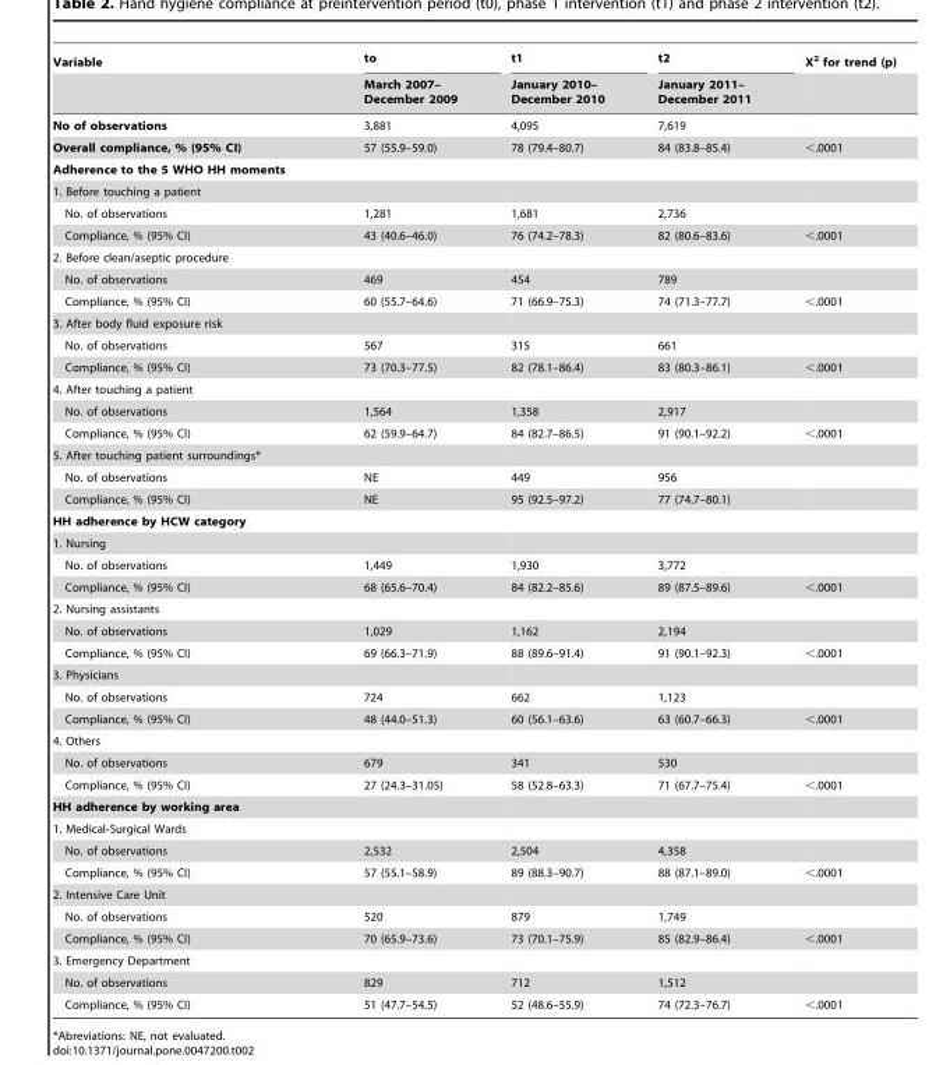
<table><thead><tr><td rowspan="2">Variable</td><td rowspan="2">to March 2007– December 2009</td><td rowspan="2">t1 January 2010– December 2010</td><td rowspan="2">t2 January 2011– December 2011</td><td rowspan="2">X<sup>2</sup> for trend (p)</td></tr><tr></tr></thead><tbody><tr><td>No of observations</td><td>3,881</td><td>4,095</td><td>7,619</td><td></td></tr><tr><td>Overall compliance, % (95% CI)</td><td>57 (55.9–59.0)</td><td>78 (79.4–80.7)</td><td>84 (83.8–85.4)</td><td>&lt;.0001</td></tr><tr><td colspan="5">Adherence to the 5 WHO HH moments</td></tr><tr><td colspan="5">1. Before touching a patient</td></tr><tr><td>No. of observations</td><td>1,281</td><td>1,681</td><td>2,736</td><td></td></tr><tr><td>Compliance, % (95% CI)</td><td>43 (40.6–46.0)</td><td>76 (74.2–78.3)</td><td>82 (80.6–83.6)</td><td>&lt;.0001</td></tr><tr><td colspan="5">2. Before clean/aseptic procedure</td></tr><tr><td>No. of observations</td><td>469</td><td>454</td><td>789</td><td></td></tr><tr><td>Compliance, % (95% CI)</td><td>60 (55.7–64.6)</td><td>71 (66.9–75.3)</td><td>74 (71.3–77.7)</td><td>&lt;.0001</td></tr><tr><td colspan="5">3. After body fluid exposure risk</td></tr><tr><td>No. of observations</td><td>567</td><td>315</td><td>661</td><td></td></tr><tr><td>Compliance, % (95% CI)</td><td>73 (70.3–77.5)</td><td>82 (78.1–86.4)</td><td>83 (80.3–86.1)</td><td>&lt;.0001</td></tr><tr><td colspan="5">4. After touching a patient</td></tr><tr><td>No. of observations</td><td>1,564</td><td>1,358</td><td>2,917</td><td></td></tr><tr><td>Compliance, % (95% CI)</td><td>62 (59.9–64.7)</td><td>84 (82.7–86.5)</td><td>91 (90.1–92.2)</td><td>&lt;.0001</td></tr><tr><td colspan="5">5. After touching patient surroundings*</td></tr><tr><td>No. of observations</td><td>NE</td><td>449</td><td>956</td><td></td></tr><tr><td>Compliance, % (95% CI)</td><td>NE</td><td>95 (92.5–97.2)</td><td>77 (74.7–80.1)</td><td></td></tr><tr><td colspan="5">HH adherence by HCW category</td></tr><tr><td colspan="5">1. Nursing</td></tr><tr><td>No. of observations</td><td>1,449</td><td>1,930</td><td>3,772</td><td></td></tr><tr><td>Compliance, % (95% CI)</td><td>68 (65.6–70.4)</td><td>84 (82.2–85.6)</td><td>89 (87.5–89.6)</td><td>&lt;.0001</td></tr><tr><td colspan="5">2. Nursing assistants</td></tr><tr><td>No. of observations</td><td>1,029</td><td>1,162</td><td>2,194</td><td></td></tr><tr><td>Compliance, % (95% CI)</td><td>69 (66.3–71.9)</td><td>88 (89.6–91.4)</td><td>91 (90.1–92.3)</td><td>&lt;.0001</td></tr><tr><td colspan="5">3. Physicians</td></tr><tr><td>No. of observations</td><td>724</td><td>662</td><td>1,123</td><td></td></tr><tr><td>Compliance, % (95% CI)</td><td>48 (44.0–51.3)</td><td>60 (56.1–63.6)</td><td>63 (60.7–66.3)</td><td>&lt;.0001</td></tr><tr><td colspan="5">4. Others</td></tr><tr><td>No. of observations</td><td>679</td><td>341</td><td>530</td><td></td></tr><tr><td>Compliance, % (95% CI)</td><td>27 (24.3–31.05)</td><td>58 (52.8–63.3)</td><td>71 (67.7–75.4)</td><td>&lt;.0001</td></tr><tr><td colspan="5">HH adherence by working area</td></tr><tr><td colspan="5">1. Medical-Surgical Wards</td></tr><tr><td>No. of observations</td><td>2,532</td><td>2,504</td><td>4,358</td><td></td></tr><tr><td>Compliance, % (95% CI)</td><td>57 (55.1–58.9)</td><td>89 (88.3–90.7)</td><td>88 (87.1–89.0)</td><td>&lt;.0001</td></tr><tr><td colspan="5">2. Intensive Care Unit</td></tr><tr><td>No. of observations</td><td>520</td><td>879</td><td>1,749</td><td></td></tr><tr><td>Compliance, % (95% CI)</td><td>70 (65.9–73.6)</td><td>73 (70.1–75.9)</td><td>85 (82.9–86.4)</td><td>&lt;.0001</td></tr><tr><td colspan="5">3. Emergency Department</td></tr><tr><td>No. of observations</td><td>829</td><td>712</td><td>1,512</td><td></td></tr><tr><td>Compliance, % (95% CI)</td><td>51 (47.7–54.5)</td><td>52 (48.6–55.9)</td><td>74 (72.3–76.7)</td><td>&lt;.0001</td></tr></tbody></table>